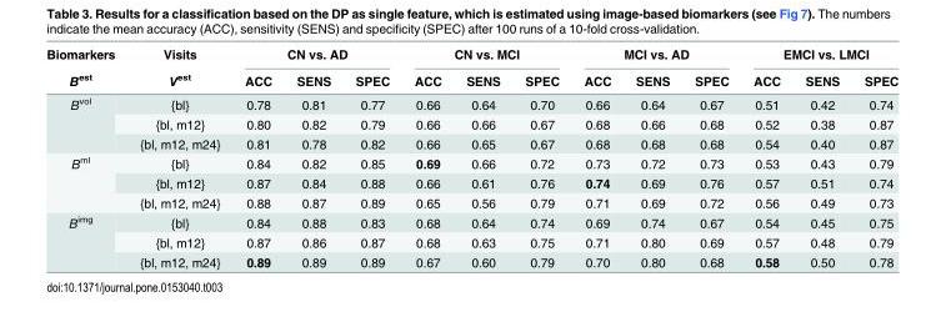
<table><thead><tr><td rowspan="2">Biomarkers B<sup>est</sup></td><td rowspan="2">Visits V<sup>est</sup></td><td colspan="3">CN vs. AD</td><td colspan="3">CN vs. MCI</td><td colspan="3">MCI vs. AD</td><td colspan="3">EMCI vs. LMCI</td></tr><tr><td>ACC</td><td>SENS</td><td>SPEC</td><td>ACC</td><td>SENS</td><td>SPEC</td><td>ACC</td><td>SENS</td><td>SPEC</td><td>ACC</td><td>SENS</td><td>SPEC</td></tr></thead><tbody><tr><td rowspan="3">B<sup>vol</sup></td><td>{bl}</td><td>0.78</td><td>0.81</td><td>0.77</td><td>0.66</td><td>0.64</td><td>0.70</td><td>0.66</td><td>0.64</td><td>0.67</td><td>0.51</td><td>0.42</td><td>0.74</td></tr><tr><td>{bl, m12}</td><td>0.80</td><td>0.82</td><td>0.79</td><td>0.66</td><td>0.66</td><td>0.67</td><td>0.68</td><td>0.66</td><td>0.68</td><td>0.52</td><td>0.38</td><td>0.87</td></tr><tr><td>{bl, m12, m24}</td><td>0.81</td><td>0.78</td><td>0.82</td><td>0.66</td><td>0.65</td><td>0.67</td><td>0.68</td><td>0.68</td><td>0.68</td><td>0.54</td><td>0.40</td><td>0.87</td></tr><tr><td rowspan="3">B<sup>ml</sup></td><td>{bl}</td><td>0.84</td><td>0.82</td><td>0.85</td><td>0.69</td><td>0.66</td><td>0.72</td><td>0.73</td><td>0.72</td><td>0.73</td><td>0.53</td><td>0.43</td><td>0.79</td></tr><tr><td>{bl, m12}</td><td>0.87</td><td>0.84</td><td>0.88</td><td>0.66</td><td>0.61</td><td>0.76</td><td>0.74</td><td>0.69</td><td>0.76</td><td>0.57</td><td>0.51</td><td>0.74</td></tr><tr><td>{bl, m12, m24}</td><td>0.88</td><td>0.87</td><td>0.89</td><td>0.65</td><td>0.56</td><td>0.79</td><td>0.71</td><td>0.69</td><td>0.72</td><td>0.56</td><td>0.49</td><td>0.73</td></tr><tr><td rowspan="3">B<sup>img</sup></td><td>{bl}</td><td>0.84</td><td>0.88</td><td>0.83</td><td>0.68</td><td>0.64</td><td>0.74</td><td>0.69</td><td>0.74</td><td>0.67</td><td>0.54</td><td>0.45</td><td>0.75</td></tr><tr><td>{bl, m12}</td><td>0.87</td><td>0.86</td><td>0.87</td><td>0.68</td><td>0.63</td><td>0.75</td><td>0.71</td><td>0.80</td><td>0.69</td><td>0.57</td><td>0.48</td><td>0.79</td></tr><tr><td>{bl, m12, m24}</td><td>0.89</td><td>0.89</td><td>0.89</td><td>0.67</td><td>0.60</td><td>0.79</td><td>0.70</td><td>0.80</td><td>0.68</td><td>0.58</td><td>0.50</td><td>0.78</td></tr></tbody></table>